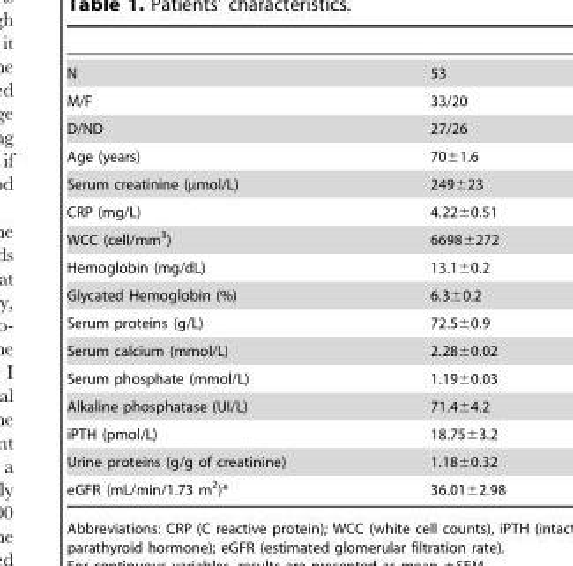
<table><tbody><tr><td>N</td><td>53</td></tr><tr><td>M/F</td><td>33/20</td></tr><tr><td>D/ND</td><td>27/26</td></tr><tr><td>Age (years)</td><td>70±1.6</td></tr><tr><td>Serum creatinine (µmol/L)</td><td>249±23</td></tr><tr><td>CRP (mg/L)</td><td>4.22±0.51</td></tr><tr><td>WCC (cell/mm<sup>3</sup>)</td><td>6698±272</td></tr><tr><td>Hemoglobin (mg/dL)</td><td>13.1±0.2</td></tr><tr><td>Glycated Hemoglobin (%)</td><td>6.3±0.2</td></tr><tr><td>Serum proteins (g/L)</td><td>72.5±0.9</td></tr><tr><td>Serum calcium (mmol/L)</td><td>2.28±0.02</td></tr><tr><td>Serum phosphate (mmol/L)</td><td>1.19±0.03</td></tr><tr><td>Alkaline phosphatase (UI/L)</td><td>71.4±4.2</td></tr><tr><td>iPTH (pmol/L)</td><td>18.75±3.2</td></tr><tr><td>Urine proteins (g/g of creatinine)</td><td>1.18±0.32</td></tr><tr><td>eGFR (mL/min/1.73 m<sup>2</sup>)*</td><td>36.01±2.98</td></tr></tbody></table>